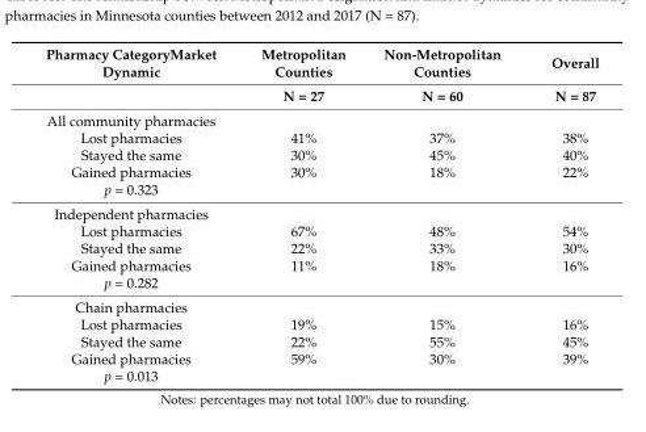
<table><thead><tr><td rowspan="2">Pharmacy CategoryMarket Dynamic</td><td rowspan="2">Metropolitan Counties N = 27</td><td rowspan="2">Non-Metropolitan Counties N = 60</td><td rowspan="2">Overall N = 87</td></tr><tr></tr></thead><tbody><tr><td colspan="4">All community pharmacies</td></tr><tr><td>Lost pharmacies</td><td>41%</td><td>37%</td><td>38%</td></tr><tr><td>Stayed the same</td><td>30%</td><td>45%</td><td>40%</td></tr><tr><td>Gained pharmacies</td><td>30%</td><td>18%</td><td>22%</td></tr><tr><td colspan="4">p = 0.323</td></tr><tr><td colspan="4">Independent pharmacies</td></tr><tr><td>Lost pharmacies</td><td>67%</td><td>48%</td><td>54%</td></tr><tr><td>Stayed the same</td><td>22%</td><td>33%</td><td>30%</td></tr><tr><td>Gained pharmacies</td><td>11%</td><td>18%</td><td>16%</td></tr><tr><td colspan="4">p = 0.282</td></tr><tr><td colspan="4">Chain pharmacies</td></tr><tr><td>Lost pharmacies</td><td>19%</td><td>15%</td><td>16%</td></tr><tr><td>Stayed the same</td><td>22%</td><td>55%</td><td>45%</td></tr><tr><td>Gained pharmacies</td><td>59%</td><td>30%</td><td>39%</td></tr><tr><td>p = 0.013</td><td></td><td></td><td></td></tr></tbody></table>